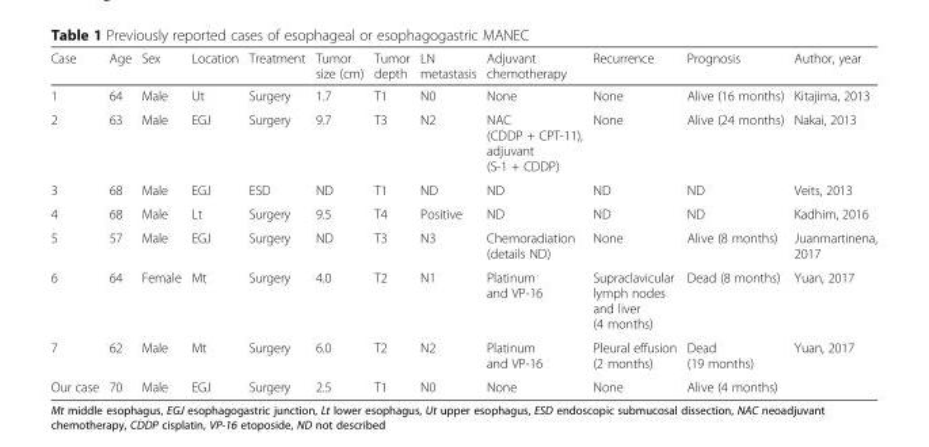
<table><thead><tr><td>Case</td><td>Age</td><td>Sex</td><td>Location</td><td>Treatment</td><td>Tumor size (cm)</td><td>Tumor depth</td><td>LN metastasis</td><td>Adjuvant chemotherapy</td><td>Recurrence</td><td>Prognosis</td><td>Author, year</td></tr></thead><tbody><tr><td>1</td><td>64</td><td>Male</td><td>Ut</td><td>Surgery</td><td>1.7</td><td>T1</td><td>N0</td><td>None</td><td>None</td><td>Alive (16 months)</td><td>Kitajima, 2013</td></tr><tr><td>2</td><td>63</td><td>Male</td><td>EGJ</td><td>Surgery</td><td>9.7</td><td>T3</td><td>N2</td><td>NAC (CDDP + CPT-11), adjuvant (S-1 + CDDP)</td><td>None</td><td>Alive (24 months)</td><td>Nakai, 2013</td></tr><tr><td>3</td><td>68</td><td>Male</td><td>EGJ</td><td>ESD</td><td>ND</td><td>T1</td><td>ND</td><td>ND</td><td>ND</td><td>ND</td><td>Veits, 2013</td></tr><tr><td>4</td><td>68</td><td>Male</td><td>Lt</td><td>Surgery</td><td>9.5</td><td>T4</td><td>Positive</td><td>ND</td><td>ND</td><td>ND</td><td>Kadhim, 2016</td></tr><tr><td>5</td><td>57</td><td>Male</td><td>EGJ</td><td>Surgery</td><td>ND</td><td>T3</td><td>N3</td><td>Chemoradiation (details ND)</td><td>None</td><td>Alive (8 months)</td><td>Juanmartinena, 2017</td></tr><tr><td>6</td><td>64</td><td>Female</td><td>Mt</td><td>Surgery</td><td>4.0</td><td>T2</td><td>N1</td><td>Platinum and VP-16</td><td>Supraclavicular lymph nodes and liver (4 months)</td><td>Dead (8 months)</td><td>Yuan, 2017</td></tr><tr><td>7</td><td>62</td><td>Male</td><td>Mt</td><td>Surgery</td><td>6.0</td><td>T2</td><td>N2</td><td>Platinum and VP-16</td><td>Pleural effusion (2 months)</td><td>Dead (19 months)</td><td>Yuan, 2017</td></tr><tr><td>Our case</td><td>70</td><td>Male</td><td>EGJ</td><td>Surgery</td><td>2.5</td><td>T1</td><td>N0</td><td>None</td><td>None</td><td>Alive (4 months)</td><td></td></tr></tbody></table>